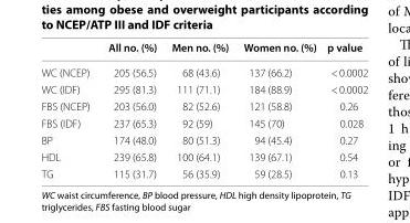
<table><thead><tr><td></td><td>All no. (%)</td><td>Men no. (%)</td><td>Women no. (%)</td><td>p value</td></tr></thead><tbody><tr><td>WC (NCEP)</td><td>205 (56.5)</td><td>68 (43.6)</td><td>137 (66.2)</td><td>&lt; 0.0002</td></tr><tr><td>WC (IDF)</td><td>295 (81.3)</td><td>111 (71.1)</td><td>184 (88.9)</td><td>&lt; 0.0002</td></tr><tr><td>FBS (NCEP)</td><td>203 (56.0)</td><td>82 (52.6)</td><td>121 (58.8)</td><td>0.26</td></tr><tr><td>FBS (IDF)</td><td>237 (65.3)</td><td>92 (59)</td><td>145 (70)</td><td>0.028</td></tr><tr><td>BP</td><td>174 (48.0)</td><td>80 (51.3)</td><td>94 (45.4)</td><td>0.27</td></tr><tr><td>HDL</td><td>239 (65.8)</td><td>100 (64.1)</td><td>139 (67.1)</td><td>0.54</td></tr><tr><td>TG</td><td>115 (31.7)</td><td>56 (35.9)</td><td>59 (28.5)</td><td>0.13</td></tr></tbody></table>